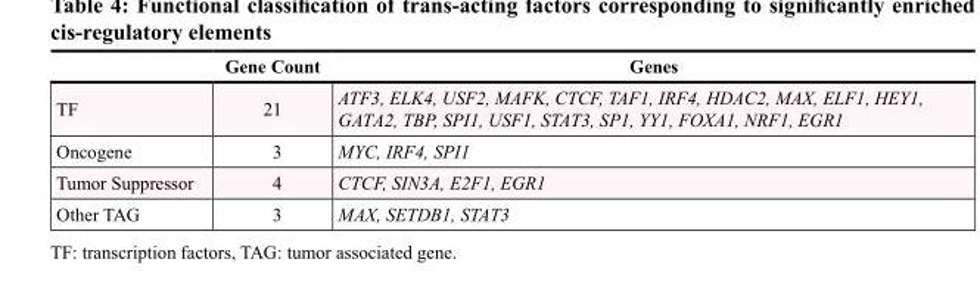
<table><thead><tr><td></td><td>Gene Count</td><td>Genes</td></tr></thead><tbody><tr><td>TF</td><td>21</td><td>ATF3, ELK4, USF2, MAFK, CTCF, TAF1, IRF4, HDAC2, MAX, ELF1, HEY1, GATA2, TBP, SPI1, USF1, STAT3, SP1, YY1, FOXA1, NRF1, EGR1</td></tr><tr><td>Oncogene</td><td>3</td><td>MYC, IRF4, SPI1</td></tr><tr><td>Tumor Suppressor</td><td>4</td><td>CTCF, SIN3A, E2F1, EGR1</td></tr><tr><td>Other TAG</td><td>3</td><td>MAX, SETDB1, STAT3</td></tr></tbody></table>